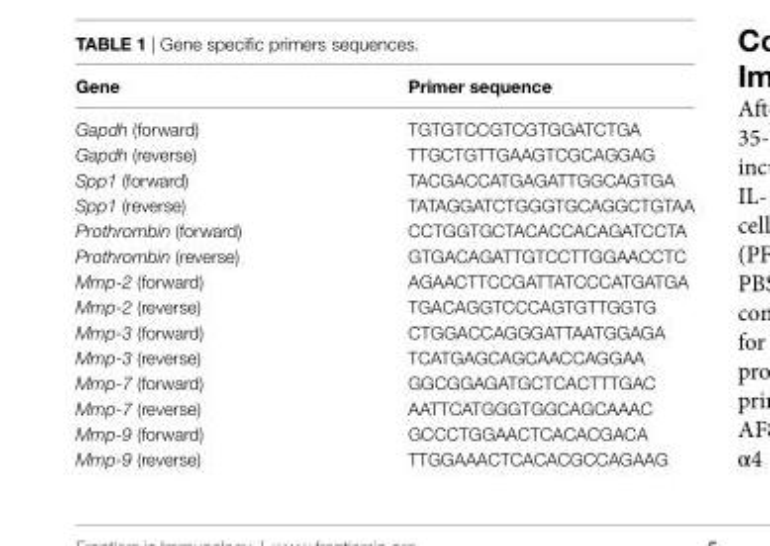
<table><thead><tr><td>gene</td><td>Primer sequence</td></tr></thead><tbody><tr><td>Gapdh (forward)</td><td>TGTGTCCGTCGTGGATCTGA</td></tr><tr><td>Gapdh (reverse)</td><td>TTGCTGTTGAAGTCGCAGGAG</td></tr><tr><td>Spp1 (forward)</td><td>TACGACCATGAGATTGGCAGTGA</td></tr><tr><td>Spp1 (reverse)</td><td>TATAGGATCTGGGTGCAGGCTGTAA</td></tr><tr><td>Prothrombin (forward)</td><td>CCTGGTGCTACACCACAGATCCTA</td></tr><tr><td>Prothrombin (reverse)</td><td>GTGACAGATTGTCCTTGGAACCTC</td></tr><tr><td>Mmp-2 (forward)</td><td>AGAACTTCCGATTATCCCATGATGA</td></tr><tr><td>Mmp-2 (reverse)</td><td>TGACAGGTCCCAGTGTTGGTG</td></tr><tr><td>Mmp-3 (forward)</td><td>CTGGACCAGGGATTAATGGAGA</td></tr><tr><td>Mmp-3 (reverse)</td><td>TCATGAGCAGCAACCAGGAA</td></tr><tr><td>Mmp-7 (forward)</td><td>GGCGGAGATGCTCACTTTGAC</td></tr><tr><td>Mmp-7 (reverse)</td><td>AATTCATGGGTGGCAGCAAAC</td></tr><tr><td>Mmp-9 (forward)</td><td>GCCCTGGAACTCACACGACA</td></tr><tr><td>Mmp-9 (reverse)</td><td>TTGGAAACTCACACGCCAGAAG</td></tr></tbody></table>